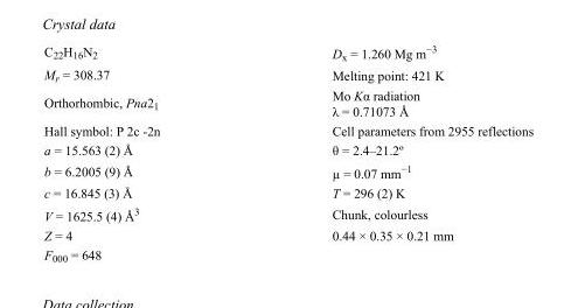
<table><tbody><tr><td>C<sub>22</sub>H<sub>16</sub>N<sub>2</sub></td><td>D<sub>x</sub> = 1.260 Mg m<sup>−3</sup></td></tr><tr><td>M<sub>r</sub> = 308.37</td><td>Melting point: 421 K</td></tr><tr><td>Orthorhombic, Pna2<sub>1</sub></td><td>Mo Kα radiation λ = 0.71073 Å</td></tr><tr><td>Hall symbol: P 2c -2n</td><td>Cell parameters from 2955 reflections</td></tr><tr><td>a = 15.563 (2) Å</td><td>θ = 2.4–21.2º</td></tr><tr><td>b = 6.2005 (9) Å</td><td>µ = 0.07 mm<sup>−1</sup></td></tr><tr><td>c = 16.845 (3) Å</td><td>T = 296 (2) K</td></tr><tr><td>V = 1625.5 (4) Å<sup>3</sup></td><td>Chunk, colourless</td></tr><tr><td>Z = 4</td><td>0.44 × 0.35 × 0.21 mm</td></tr><tr><td>F000 = 648</td><td></td></tr></tbody></table>